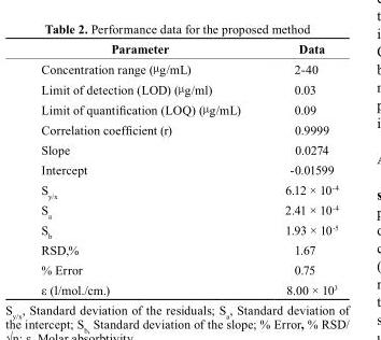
<table><thead><tr><td>Parameter</td><td>Data</td></tr></thead><tbody><tr><td>Concentration range (µg/mL)</td><td>2-40</td></tr><tr><td>Limit of detection (LOD) (µg/ml)</td><td>0.03</td></tr><tr><td>Limit of quantification (LOQ) (µg/mL)</td><td>0.09</td></tr><tr><td>Correlation coefficient (r)</td><td>0.9999</td></tr><tr><td>Slope</td><td>0.0274</td></tr><tr><td>Intercept</td><td>-0.01599</td></tr><tr><td>S<sub>y/x</sub></td><td>6.12 × 10<sup>-4</sup></td></tr><tr><td>S<sub>a</sub></td><td>2.41 × 10<sup>-4</sup></td></tr><tr><td>S<sub>b</sub></td><td>1.93 × 10<sup>-5</sup></td></tr><tr><td>RSD,%</td><td>1.67</td></tr><tr><td>% Error</td><td>0.75</td></tr><tr><td>ε (l/mol./cm.)</td><td>8.00 × 10<sup>3</sup></td></tr></tbody></table>